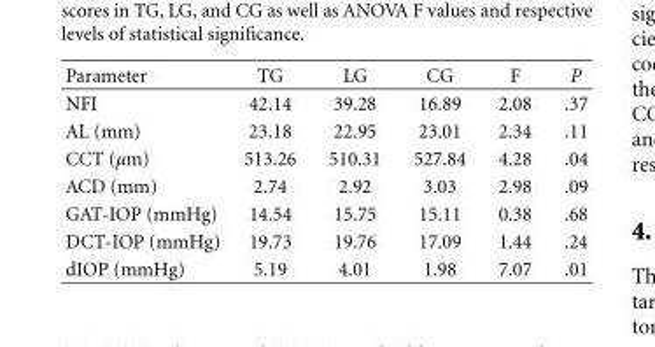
<table><thead><tr><td>Parameter</td><td>TG</td><td>LG</td><td>CG</td><td>F</td><td>P</td></tr></thead><tbody><tr><td>NFI</td><td>42.14</td><td>39.28</td><td>16.89</td><td>2.08</td><td>.37</td></tr><tr><td>AL (mm)</td><td>23.18</td><td>22.95</td><td>23.01</td><td>2.34</td><td>.11</td></tr><tr><td>CCT (μm)</td><td>513.26</td><td>510.31</td><td>527.84</td><td>4.28</td><td>.04</td></tr><tr><td>ACD (mm)</td><td>2.74</td><td>2.92</td><td>3.03</td><td>2.98</td><td>.09</td></tr><tr><td>GAT-IOP (mmHg)</td><td>14.54</td><td>15.75</td><td>15.11</td><td>0.38</td><td>.68</td></tr><tr><td>DCT-IOP (mmHg)</td><td>19.73</td><td>19.76</td><td>17.09</td><td>1.44</td><td>.24</td></tr><tr><td>dIOP (mmHg)</td><td>5.19</td><td>4.01</td><td>1.98</td><td>7.07</td><td>.01</td></tr></tbody></table>